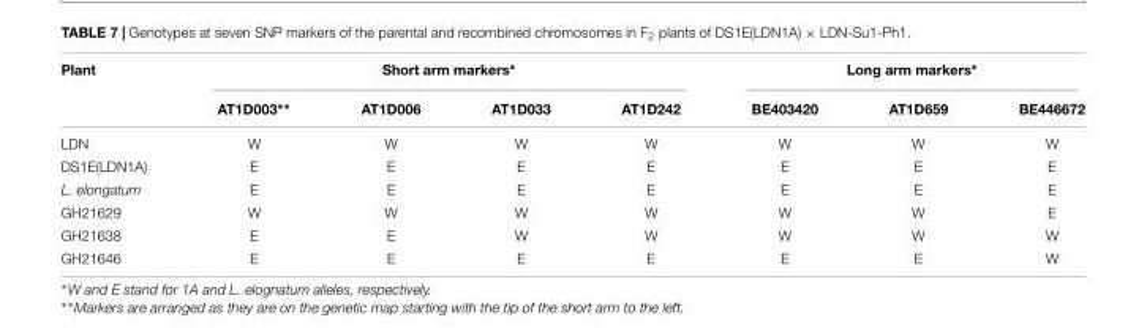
<table><thead><tr><td rowspan="2">Plant</td><td colspan="4">Short arm markers∗</td><td colspan="3">Long arm markers∗</td></tr><tr><td>AT1D003∗∗</td><td>AT1D006</td><td>AT1D033</td><td>AT1D242</td><td>BE403420</td><td>AT1D659</td><td>BE446672</td></tr></thead><tbody><tr><td>LDN</td><td>W</td><td>W</td><td>W</td><td>W</td><td>W</td><td>W</td><td>W</td></tr><tr><td>DS1E(LDN1A)</td><td>E</td><td>E</td><td>E</td><td>E</td><td>E</td><td>E</td><td>E</td></tr><tr><td>L. elongatum</td><td>E</td><td>E</td><td>E</td><td>E</td><td>E</td><td>E</td><td>E</td></tr><tr><td>GH21629</td><td>W</td><td>W</td><td>W</td><td>W</td><td>W</td><td>W</td><td>E</td></tr><tr><td>GH21638</td><td>E</td><td>E</td><td>W</td><td>W</td><td>W</td><td>W</td><td>W</td></tr><tr><td>GH21646</td><td>E</td><td>E</td><td>E</td><td>E</td><td>E</td><td>E</td><td>W</td></tr></tbody></table>